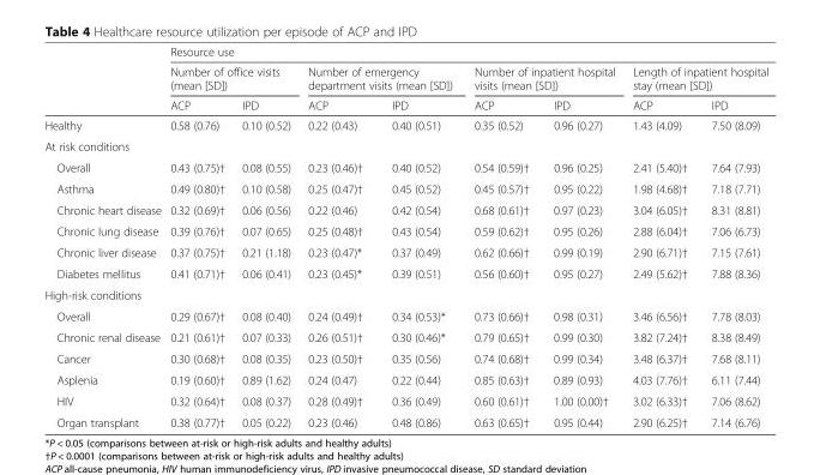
<table><thead><tr><td rowspan="3"></td><td colspan="8">Resource use</td></tr><tr><td colspan="2">Number of office visits (mean [SD])</td><td colspan="2">Number of emergency department visits (mean [SD])</td><td colspan="2">Number of inpatient hospital visits (mean [SD])</td><td colspan="2">Length of inpatient hospital stay (mean [SD])</td></tr><tr><td>ACP</td><td>IPD</td><td>ACP</td><td>IPD</td><td>ACP</td><td>IPD</td><td>ACP</td><td>IPD</td></tr></thead><tbody><tr><td>Healthy</td><td>0.58 (0.76)</td><td>0.10 (0.52)</td><td>0.22 (0.43)</td><td>0.40 (0.51)</td><td>0.35 (0.52)</td><td>0.96 (0.27)</td><td>1.43 (4.09)</td><td>7.50 (8.09)</td></tr><tr><td colspan="9">At risk conditions</td></tr><tr><td>Overall</td><td>0.43 (0.75)†</td><td>0.08 (0.55)</td><td>0.23 (0.46)†</td><td>0.40 (0.52)</td><td>0.54 (0.59)†</td><td>0.96 (0.25)</td><td>2.41 (5.40)†</td><td>7.64 (7.93)</td></tr><tr><td>Asthma</td><td>0.49 (0.80)†</td><td>0.10 (0.58)</td><td>0.25 (0.47)†</td><td>0.45 (0.52)</td><td>0.45 (0.57)†</td><td>0.95 (0.22)</td><td>1.98 (4.68)†</td><td>7.18 (7.71)</td></tr><tr><td>Chronic heart disease</td><td>0.32 (0.69)†</td><td>0.06 (0.56)</td><td>0.22 (0.46)</td><td>0.42 (0.54)</td><td>0.68 (0.61)†</td><td>0.97 (0.23)</td><td>3.04 (6.05)†</td><td>8.31 (8.81)</td></tr><tr><td>Chronic lung disease</td><td>0.39 (0.76)†</td><td>0.07 (0.65)</td><td>0.25 (0.48)†</td><td>0.43 (0.54)</td><td>0.59 (0.62)†</td><td>0.95 (0.26)</td><td>2.88 (6.04)†</td><td>7.06 (6.73)</td></tr><tr><td>Chronic liver disease</td><td>0.37 (0.75)†</td><td>0.21 (1.18)</td><td>0.23 (0.47)*</td><td>0.37 (0.49)</td><td>0.62 (0.66)†</td><td>0.99 (0.19)</td><td>2.90 (6.71)†</td><td>7.15 (7.61)</td></tr><tr><td>Diabetes mellitus</td><td>0.41 (0.71)†</td><td>0.06 (0.41)</td><td>0.23 (0.45)*</td><td>0.39 (0.51)</td><td>0.56 (0.60)†</td><td>0.95 (0.27)</td><td>2.49 (5.62)†</td><td>7.88 (8.36)</td></tr><tr><td colspan="9">High-risk conditions</td></tr><tr><td>Overall</td><td>0.29 (0.67)†</td><td>0.08 (0.40)</td><td>0.24 (0.49)†</td><td>0.34 (0.53)*</td><td>0.73 (0.66)†</td><td>0.98 (0.31)</td><td>3.46 (6.56)†</td><td>7.78 (8.03)</td></tr><tr><td>Chronic renal disease</td><td>0.21 (0.61)†</td><td>0.07 (0.33)</td><td>0.26 (0.51)†</td><td>0.30 (0.46)*</td><td>0.79 (0.65)†</td><td>0.99 (0.30)</td><td>3.82 (7.24)†</td><td>8.38 (8.49)</td></tr><tr><td>Cancer</td><td>0.30 (0.68)†</td><td>0.08 (0.35)</td><td>0.23 (0.50)†</td><td>0.35 (0.56)</td><td>0.74 (0.68)†</td><td>0.99 (0.34)</td><td>3.48 (6.37)†</td><td>7.68 (8.11)</td></tr><tr><td>Asplenia</td><td>0.19 (0.60)†</td><td>0.89 (1.62)</td><td>0.24 (0.47)</td><td>0.22 (0.44)</td><td>0.85 (0.63)†</td><td>0.89 (0.93)</td><td>4.03 (7.76)†</td><td>6.11 (7.44)</td></tr><tr><td>HIV</td><td>0.32 (0.64)†</td><td>0.08 (0.37)</td><td>0.28 (0.49)†</td><td>0.36 (0.49)</td><td>0.60 (0.61)†</td><td>1.00 (0.00)†</td><td>3.02 (6.33)†</td><td>7.06 (8.62)</td></tr><tr><td>Organ transplant</td><td>0.38 (0.77)†</td><td>0.05 (0.22)</td><td>0.23 (0.46)</td><td>0.48 (0.86)</td><td>0.63 (0.65)†</td><td>0.95 (0.44)</td><td>2.90 (6.25)†</td><td>7.14 (6.76)</td></tr></tbody></table>